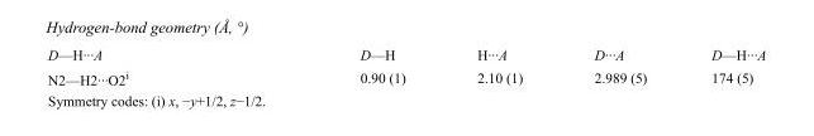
<table><tbody><tr><td>D—H···A</td><td>D—H</td><td>H···A</td><td>D···A</td><td>D—H···A</td></tr><tr><td>N2—H2···O2<sup>i</sup></td><td>0.90 (1)</td><td>2.10 (1)</td><td>2.989 (5)</td><td>174 (5)</td></tr></tbody></table>